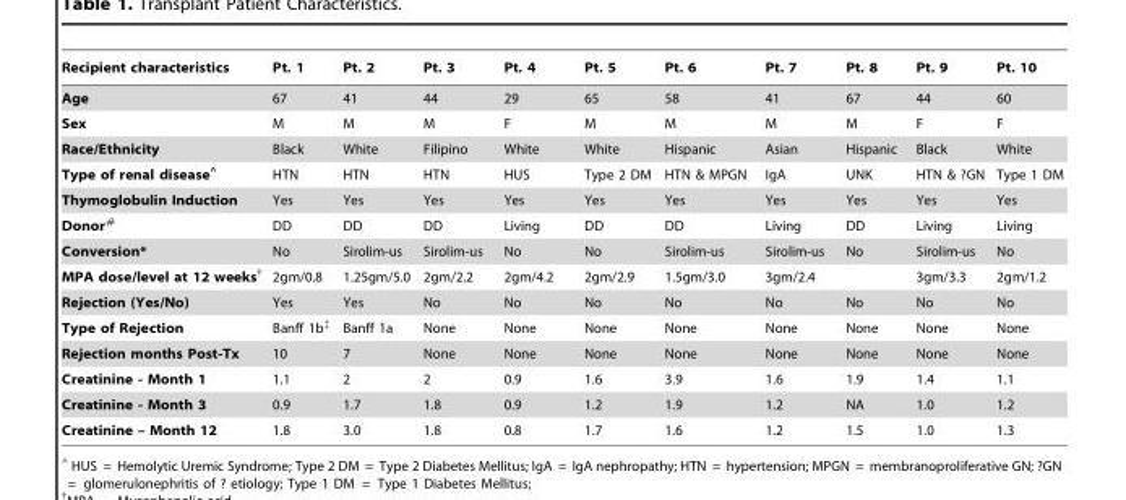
<table><thead><tr><td>Recipient characteristics</td><td>Pt. 1</td><td>Pt. 2</td><td>Pt. 3</td><td>Pt. 4</td><td>Pt. 5</td><td>Pt. 6</td><td>Pt. 7</td><td>Pt. 8</td><td>Pt. 9</td><td>Pt. 10</td></tr></thead><tbody><tr><td>Age</td><td>67</td><td>41</td><td>44</td><td>29</td><td>65</td><td>58</td><td>41</td><td>67</td><td>44</td><td>60</td></tr><tr><td>Sex</td><td>M</td><td>M</td><td>M</td><td>F</td><td>M</td><td>M</td><td>M</td><td>M</td><td>F</td><td>F</td></tr><tr><td>Race/Ethnicity</td><td>Black</td><td>White</td><td>Filipino</td><td>White</td><td>White</td><td>Hispanic</td><td>Asian</td><td>Hispanic</td><td>Black</td><td>White</td></tr><tr><td>Type of renal disease^</td><td>HTN</td><td>HTN</td><td>HTN</td><td>HUS</td><td>Type 2 DM</td><td>HTN &amp; MPGN</td><td>IgA</td><td>UNK</td><td>HTN &amp; ?GN</td><td>Type 1 DM</td></tr><tr><td>Thymoglobulin Induction</td><td>Yes</td><td>Yes</td><td>Yes</td><td>Yes</td><td>Yes</td><td>Yes</td><td>Yes</td><td>Yes</td><td>Yes</td><td>Yes</td></tr><tr><td>Donor#</td><td>DD</td><td>DD</td><td>DD</td><td>Living</td><td>DD</td><td>DD</td><td>Living</td><td>DD</td><td>Living</td><td>Living</td></tr><tr><td>Conversion*</td><td>No</td><td>Sirolim-us</td><td>Sirolim-us</td><td>No</td><td>No</td><td>Sirolim-us</td><td>Sirolim-us</td><td>No</td><td>Sirolim-us</td><td>No</td></tr><tr><td>MPA dose/level at 12 weeks†</td><td>2gm/0.8</td><td>1.25gm/5.0</td><td>2gm/2.2</td><td>2gm/4.2</td><td>2gm/2.9</td><td>1.5gm/3.0</td><td>3gm/2.4</td><td></td><td>3gm/3.3</td><td>2gm/1.2</td></tr><tr><td>Rejection (Yes/No)</td><td>Yes</td><td>Yes</td><td>No</td><td>No</td><td>No</td><td>No</td><td>No</td><td>No</td><td>No</td><td>No</td></tr><tr><td>Type of Rejection</td><td>Banff 1b‡</td><td>Banff 1a</td><td>None</td><td>None</td><td>None</td><td>None</td><td>None</td><td>None</td><td>None</td><td>None</td></tr><tr><td>Rejection months Post-Tx</td><td>10</td><td>7</td><td>None</td><td>None</td><td>None</td><td>None</td><td>None</td><td>None</td><td>None</td><td>None</td></tr><tr><td>Creatinine - Month 1</td><td>1.1</td><td>2</td><td>2</td><td>0.9</td><td>1.6</td><td>3.9</td><td>1.6</td><td>1.9</td><td>1.4</td><td>1.1</td></tr><tr><td>Creatinine - Month 3</td><td>0.9</td><td>1.7</td><td>1.8</td><td>0.9</td><td>1.2</td><td>1.9</td><td>1.2</td><td>NA</td><td>1.0</td><td>1.2</td></tr><tr><td>Creatinine – Month 12</td><td>1.8</td><td>3.0</td><td>1.8</td><td>0.8</td><td>1.7</td><td>1.6</td><td>1.2</td><td>1.5</td><td>1.0</td><td>1.3</td></tr></tbody></table>